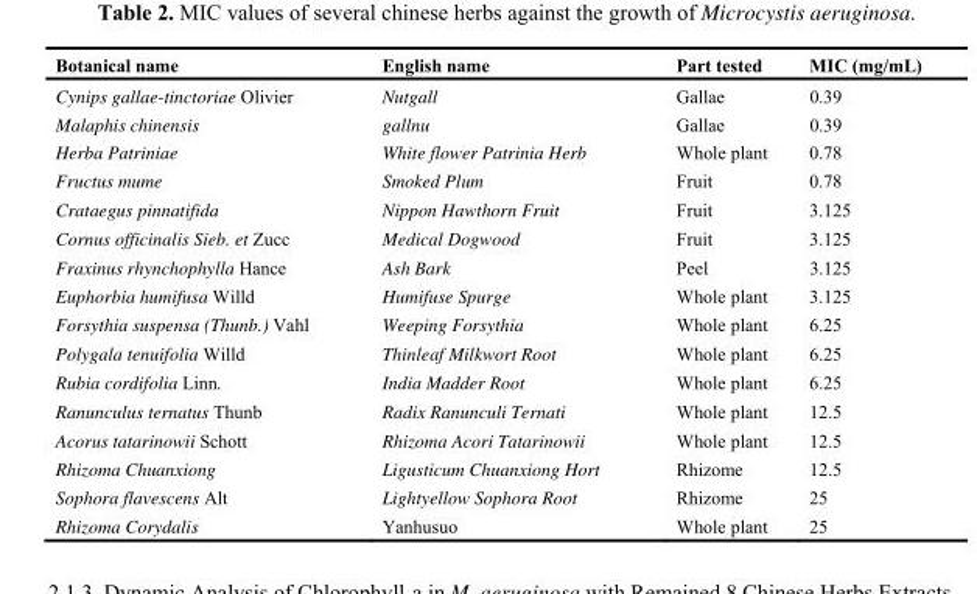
<table><thead><tr><td>Botanical name</td><td>English name</td><td>Part tested</td><td>MIC (mg/mL)</td></tr></thead><tbody><tr><td>Cynips gallae-tinctoriae Olivier</td><td>Nutgall</td><td>Gallae</td><td>0.39</td></tr><tr><td>Malaphis chinensis</td><td>gallnu</td><td>Gallae</td><td>0.39</td></tr><tr><td>Herba Patriniae</td><td>White flower Patrinia Herb</td><td>Whole plant</td><td>0.78</td></tr><tr><td>Fructus mume</td><td>Smoked Plum</td><td>Fruit</td><td>0.78</td></tr><tr><td>Crataegus pinnatifida</td><td>Nippon Hawthorn Fruit</td><td>Fruit</td><td>3.125</td></tr><tr><td>Cornus officinalis Sieb. et Zucc</td><td>Medical Dogwood</td><td>Fruit</td><td>3.125</td></tr><tr><td>Fraxinus rhynchophylla Hance</td><td>Ash Bark</td><td>Peel</td><td>3.125</td></tr><tr><td>Euphorbia humifusa Willd</td><td>Humifuse Spurge</td><td>Whole plant</td><td>3.125</td></tr><tr><td>Forsythia suspensa (Thunb.) Vahl</td><td>Weeping Forsythia</td><td>Whole plant</td><td>6.25</td></tr><tr><td>Polygala tenuifolia Willd</td><td>Thinleaf Milkwort Root</td><td>Whole plant</td><td>6.25</td></tr><tr><td>Rubia cordifolia Linn.</td><td>India Madder Root</td><td>Whole plant</td><td>6.25</td></tr><tr><td>Ranunculus ternatus Thunb</td><td>Radix Ranunculi Ternati</td><td>Whole plant</td><td>12.5</td></tr><tr><td>Acorus tatarinowii Schott</td><td>Rhizoma Acori Tatarinowii</td><td>Whole plant</td><td>12.5</td></tr><tr><td>Rhizoma Chuanxiong</td><td>Ligusticum Chuanxiong Hort</td><td>Rhizome</td><td>12.5</td></tr><tr><td>Sophora flavescens Alt</td><td>Lightyellow Sophora Root</td><td>Rhizome</td><td>25</td></tr><tr><td>Rhizoma Corydalis</td><td>Yanhusuo</td><td>Whole plant</td><td>25</td></tr></tbody></table>